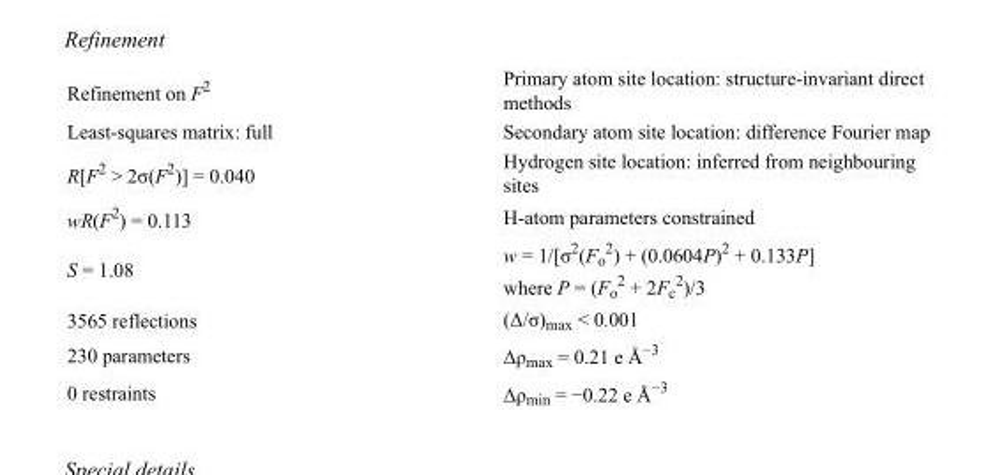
<table><tbody><tr><td>Refinement on F<sup>2</sup></td><td>Primary atom site location: structure-invariant direct methods</td></tr><tr><td>Least-squares matrix: full</td><td>Secondary atom site location: difference Fourier map</td></tr><tr><td>R[F<sup>2</sup> &gt; 2σ(F<sup>2</sup>)] = 0.040</td><td>Hydrogen site location: inferred from neighbouring sites</td></tr><tr><td>wR(F<sup>2</sup>) = 0.113</td><td>H-atom parameters constrained</td></tr><tr><td>S = 1.08</td><td>w = 1/[σ<sup>2</sup>(F<sub>o</sub> <sup>2</sup>) + (0.0604P)<sup>2</sup> + 0.133P] where P = (F<sub>o</sub> <sup>2</sup> + 2F<sub>c</sub> <sup>2</sup>)/3</td></tr><tr><td>3565 reflections</td><td>(Δ/σ)<sub>max</sub> &lt; 0.001</td></tr><tr><td>230 parameters</td><td>Δρ<sub>max</sub> = 0.21 e Å<sup>−3</sup></td></tr><tr><td>0 restraints</td><td>Δρ<sub>min</sub> = −0.22 e Å<sup>−3</sup></td></tr></tbody></table>